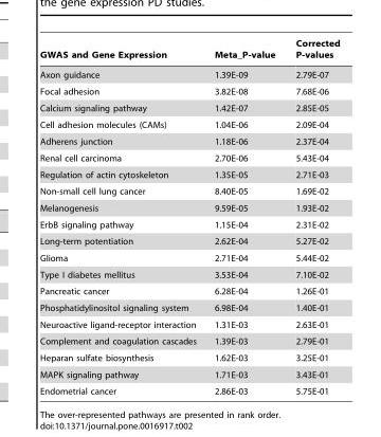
<table><thead><tr><td>GWAS and Gene Expression</td><td>Meta_P-value</td><td>Corrected P-values</td></tr></thead><tbody><tr><td>Axon guidance</td><td>1.39E-09</td><td>2.79E-07</td></tr><tr><td>Focal adhesion</td><td>3.82E-08</td><td>7.68E-06</td></tr><tr><td>Calcium signaling pathway</td><td>1.42E-07</td><td>2.85E-05</td></tr><tr><td>Cell adhesion molecules (CAMs)</td><td>1.04E-06</td><td>2.09E-04</td></tr><tr><td>Adherens junction</td><td>1.18E-06</td><td>2.37E-04</td></tr><tr><td>Renal cell carcinoma</td><td>2.70E-06</td><td>5.43E-04</td></tr><tr><td>Regulation of actin cytoskeleton</td><td>1.35E-05</td><td>2.71E-03</td></tr><tr><td>Non-small cell lung cancer</td><td>8.40E-05</td><td>1.69E-02</td></tr><tr><td>Melanogenesis</td><td>9.59E-05</td><td>1.93E-02</td></tr><tr><td>ErbB signaling pathway</td><td>1.15E-04</td><td>2.31E-02</td></tr><tr><td>Long-term potentiation</td><td>2.62E-04</td><td>5.27E-02</td></tr><tr><td>Glioma</td><td>2.71E-04</td><td>5.44E-02</td></tr><tr><td>Type I diabetes mellitus</td><td>3.53E-04</td><td>7.10E-02</td></tr><tr><td>Pancreatic cancer</td><td>6.28E-04</td><td>1.26E-01</td></tr><tr><td>Phosphatidylinositol signaling system</td><td>6.98E-04</td><td>1.40E-01</td></tr><tr><td>Neuroactive ligand-receptor interaction</td><td>1.31E-03</td><td>2.63E-01</td></tr><tr><td>Complement and coagulation cascades</td><td>1.39E-03</td><td>2.79E-01</td></tr><tr><td>Heparan sulfate biosynthesis</td><td>1.62E-03</td><td>3.25E-01</td></tr><tr><td>MAPK signaling pathway</td><td>1.71E-03</td><td>3.43E-01</td></tr><tr><td>Endometrial cancer</td><td>2.86E-03</td><td>5.75E-01</td></tr></tbody></table>